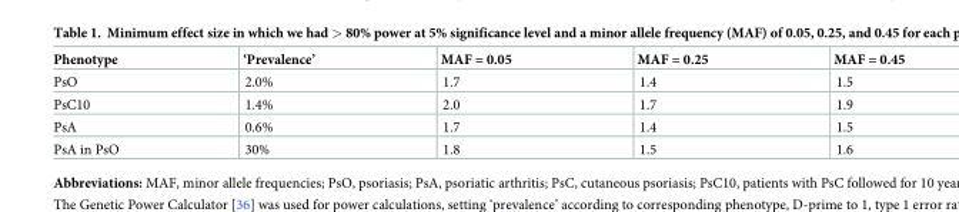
<table><thead><tr><td>Phenotype</td><td>‘Prevalence’</td><td>MAF = 0.05</td><td>MAF = 0.25</td><td>MAF = 0.45</td></tr></thead><tbody><tr><td>PsO</td><td>2.0%</td><td>1.7</td><td>1.4</td><td>1.5</td></tr><tr><td>PsC10</td><td>1.4%</td><td>2.0</td><td>1.7</td><td>1.9</td></tr><tr><td>PsA</td><td>0.6%</td><td>1.7</td><td>1.4</td><td>1.5</td></tr><tr><td>PsA in PsO</td><td>30%</td><td>1.8</td><td>1.5</td><td>1.6</td></tr></tbody></table>